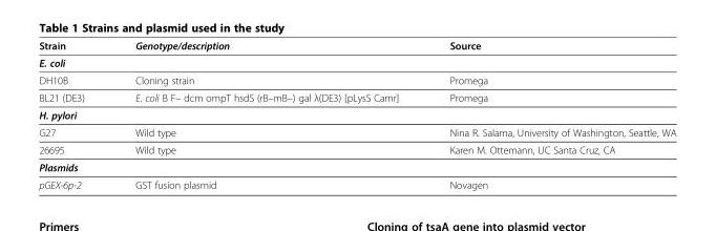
<table><thead><tr><td>Strain</td><td>Genotype/description</td><td>Source</td></tr></thead><tbody><tr><td colspan="3">E. coli</td></tr><tr><td>DH10B</td><td>Cloning strain</td><td>Promega</td></tr><tr><td>BL21 (DE3)</td><td>E. coli B F– dcm ompT hsdS (rB–mB–) gal λ(DE3) [pLysS Camr]</td><td>Promega</td></tr><tr><td colspan="3">H. pylori</td></tr><tr><td>G27</td><td>Wild type</td><td>Nina R. Salama, University of Washington, Seattle, WA</td></tr><tr><td>26695</td><td>Wild type</td><td>Karen M. Ottemann, UC Santa Cruz, CA</td></tr><tr><td colspan="3">Plasmids</td></tr><tr><td>pGEX-6p-2</td><td>GST fusion plasmid</td><td>Novagen</td></tr></tbody></table>